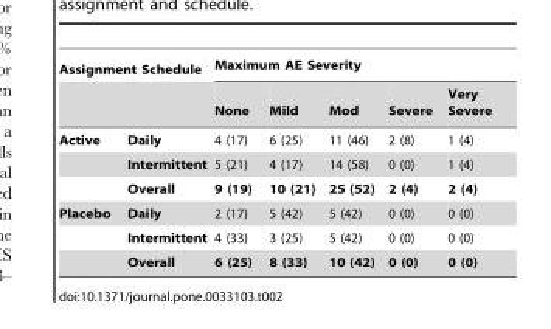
<table><thead><tr><td colspan="2">Assignment Schedule</td><td colspan="5">Maximum AE Severity</td></tr><tr><td></td><td></td><td>None</td><td>Mild</td><td>Mod</td><td>Severe</td><td>Very Severe</td></tr></thead><tbody><tr><td rowspan="3">Active</td><td>Daily</td><td>4 (17)</td><td>6 (25)</td><td>11 (46)</td><td>2 (8)</td><td>1 (4)</td></tr><tr><td>Intermittent</td><td>5 (21)</td><td>4 (17)</td><td>14 (58)</td><td>0 (0)</td><td>1 (4)</td></tr><tr><td>Overall</td><td>9 (19)</td><td>10 (21)</td><td>25 (52)</td><td>2 (4)</td><td>2 (4)</td></tr><tr><td rowspan="3">Placebo</td><td>Daily</td><td>2 (17)</td><td>5 (42)</td><td>5 (42)</td><td>0 (0)</td><td>0 (0)</td></tr><tr><td>Intermittent</td><td>4 (33)</td><td>3 (25)</td><td>5 (42)</td><td>0 (0)</td><td>0 (0)</td></tr><tr><td>Overall</td><td>6 (25)</td><td>8 (33)</td><td>10 (42)</td><td>0 (0)</td><td>0 (0)</td></tr></tbody></table>